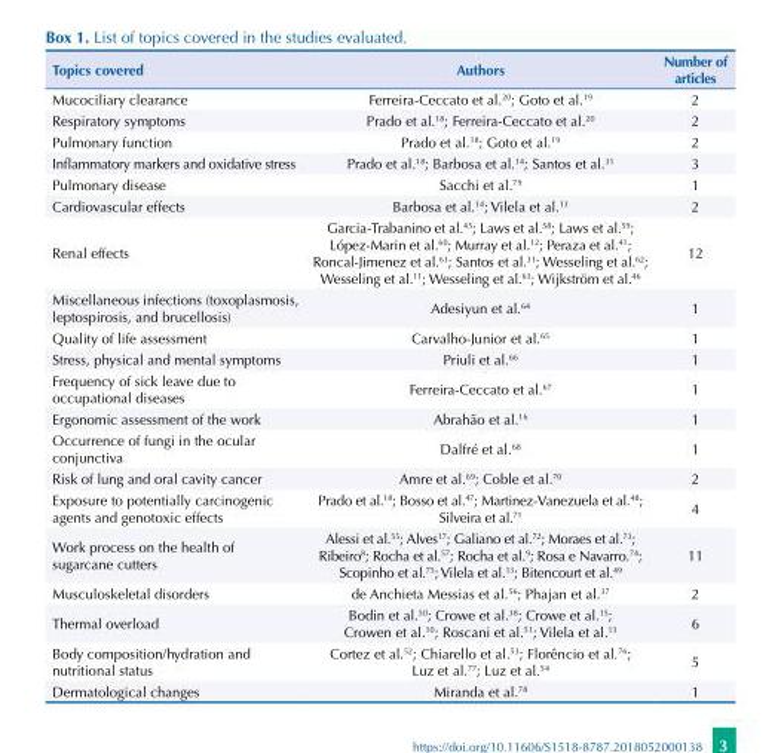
<table><thead><tr><td>Topics covered</td><td>Authors</td><td>Number of articles</td></tr></thead><tbody><tr><td>Mucociliary clearance</td><td>Ferreira-Ceccato et al.<sup>20</sup>; Goto et al.<sup>19</sup></td><td>2</td></tr><tr><td>Respiratory symptoms</td><td>Prado et al.<sup>18</sup>; Ferreira-Ceccato et al.<sup>20</sup></td><td>2</td></tr><tr><td>Pulmonary function</td><td>Prado et al.<sup>18</sup>; Goto et al.<sup>19</sup></td><td>2</td></tr><tr><td>Inflammatory markers and oxidative stress</td><td>Prado et al.<sup>18</sup>; Barbosa et al.<sup>14</sup>; Santos et al.<sup>31</sup></td><td>3</td></tr><tr><td>Pulmonary disease</td><td>Sacchi et al.<sup>79</sup></td><td>1</td></tr><tr><td>Cardiovascular effects</td><td>Barbosa et al.<sup>14</sup>; Vilela et al.<sup>13</sup></td><td>2</td></tr><tr><td>Renal effects</td><td>Garcia-Trabanino et al.<sup>45</sup>; Laws et al.<sup>58</sup>; Laws et al.<sup>59</sup>; López-Marin et al.<sup>60</sup>; Murray et al.<sup>12</sup>; Peraza et al.<sup>41</sup>; Roncal-Jimenez et al.<sup>61</sup>; Santos et al.<sup>31</sup>; Wesseling et al.<sup>62</sup>; Wesseling et al.<sup>11</sup>; Wesseling et al.<sup>63</sup>; Wijkström et al.<sup>46</sup></td><td>12</td></tr><tr><td>Miscellaneous infections (toxoplasmosis, leptospirosis, and brucellosis)</td><td>Adesiyun et al.<sup>64</sup></td><td>1</td></tr><tr><td>Quality of life assessment</td><td>Carvalho-Junior et al.<sup>65</sup></td><td>1</td></tr><tr><td>Stress, physical and mental symptoms</td><td>Priuli et al.<sup>66</sup></td><td>1</td></tr><tr><td>Frequency of sick leave due to occupational diseases</td><td>Ferreira-Ceccato et al.<sup>67</sup></td><td>1</td></tr><tr><td>Ergonomic assessment of the work</td><td>Abrahão et al.<sup>16</sup></td><td>1</td></tr><tr><td>Occurrence of fungi in the ocular conjunctiva</td><td>Dalfré et al.<sup>68</sup></td><td>1</td></tr><tr><td>Risk of lung and oral cavity cancer</td><td>Amre et al.<sup>69</sup>; Coble et al.<sup>70</sup></td><td>2</td></tr><tr><td>Exposure to potentially carcinogenic agents and genotoxic effects</td><td>Prado et al.<sup>18</sup>; Bosso et al.<sup>47</sup>; Martinez-Vanezuela et al.<sup>48</sup>; Silveira et al.<sup>71</sup></td><td>4</td></tr><tr><td>Work process on the health of sugarcane cutters</td><td>Alessi et al.<sup>55</sup>; Alves<sup>17</sup>; Galiano et al.<sup>72</sup>; Moraes et al.<sup>73</sup>; Ribeiro<sup>8</sup>; Rocha et al.<sup>57</sup>; Rocha et al.<sup>9</sup>; Rosa e Navarro.<sup>74</sup>; Scopinho et al.<sup>75</sup>; Vilela et al.<sup>13</sup>; Bitencourt et al.<sup>49</sup></td><td>11</td></tr><tr><td>Musculoskeletal disorders</td><td>de Anchieta Messias et al.<sup>56</sup>; Phajan et al.<sup>37</sup></td><td>2</td></tr><tr><td>Thermal overload</td><td>Bodin et al.<sup>50</sup>; Crowe et al.<sup>38</sup>; Crowe et al.<sup>15</sup>; Crowen et al.<sup>10</sup>; Roscani et al.<sup>51</sup>; Vilela et al.<sup>13</sup></td><td>6</td></tr><tr><td>Body composition/hydration and nutritional status</td><td>Cortez et al.<sup>52</sup>; Chiarello et al.<sup>53</sup>; Florêncio et al.<sup>76</sup>; Luz et al.<sup>77</sup>; Luz et al.<sup>54</sup></td><td>5</td></tr><tr><td>Dermatological changes</td><td>Miranda et al.<sup>78</sup></td><td>1</td></tr></tbody></table>